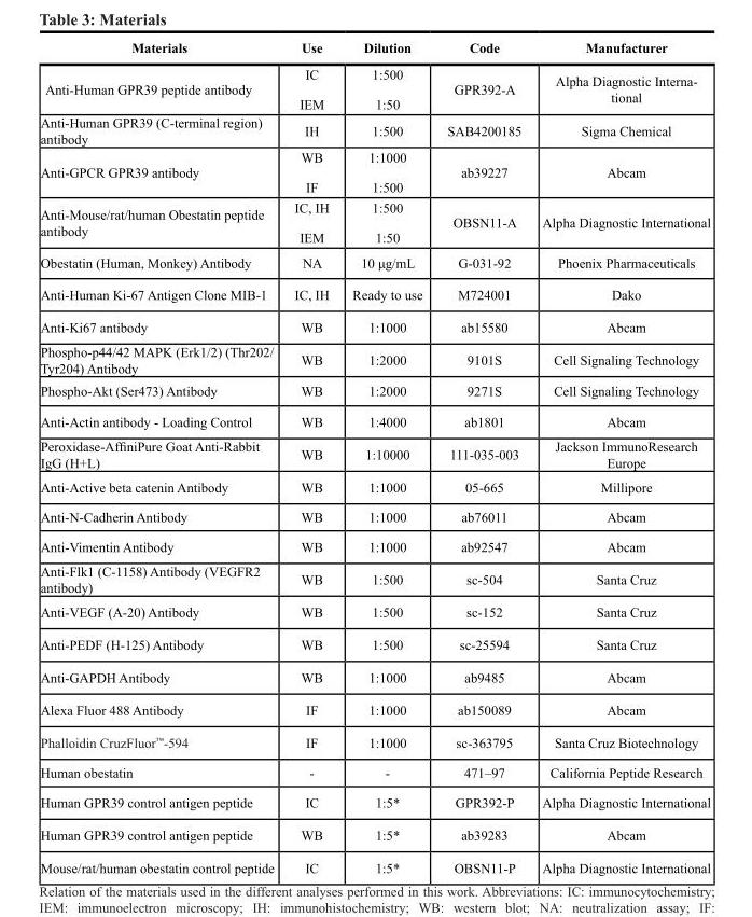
<table><thead><tr><td>Materials</td><td>Use</td><td>Dilution</td><td>Code</td><td>Manufacturer</td></tr></thead><tbody><tr><td>Anti-Human GPR39 peptide antibody</td><td>IC IEM</td><td>1:500 1:50</td><td>GPR392-A</td><td>Alpha Diagnostic Interna- tional</td></tr><tr><td>Anti-Human GPR39 (C-terminal region) antibody</td><td>IH</td><td>1:500</td><td>SAB4200185</td><td>Sigma Chemical</td></tr><tr><td>Anti-GPCR GPR39 antibody</td><td>WB IF</td><td>1:1000 1:500</td><td>ab39227</td><td>Abcam</td></tr><tr><td>Anti-Mouse/rat/human Obestatin peptide antibody</td><td>IC, IH IEM</td><td>1:500 1:50</td><td>OBSN11-A</td><td>Alpha Diagnostic International</td></tr><tr><td>Obestatin (Human, Monkey) Antibody</td><td>NA</td><td>10 μg/mL</td><td>G-031-92</td><td>Phoenix Pharmaceuticals</td></tr><tr><td>Anti-Human Ki-67 Antigen Clone MIB-1</td><td>IC, IH</td><td>Ready to use</td><td>M724001</td><td>Dako</td></tr><tr><td>Anti-Ki67 antibody</td><td>WB</td><td>1:1000</td><td>ab15580</td><td>Abcam</td></tr><tr><td>Phospho-p44/42 MAPK (Erk1/2) (Thr202/ Tyr204) Antibody</td><td>WB</td><td>1:2000</td><td>9101S</td><td>Cell Signaling Technology</td></tr><tr><td>Phospho-Akt (Ser473) Antibody</td><td>WB</td><td>1:2000</td><td>9271S</td><td>Cell Signaling Technology</td></tr><tr><td>Anti-Actin antibody - Loading Control</td><td>WB</td><td>1:4000</td><td>ab1801</td><td>Abcam</td></tr><tr><td>Peroxidase-AffiniPure Goat Anti-Rabbit IgG (H+L)</td><td>WB</td><td>1:10000</td><td>111-035-003</td><td>Jackson ImmunoResearch Europe</td></tr><tr><td>Anti-Active beta catenin Antibody</td><td>WB</td><td>1:1000</td><td>05-665</td><td>Millipore</td></tr><tr><td>Anti-N-Cadherin Antibody</td><td>WB</td><td>1:1000</td><td>ab76011</td><td>Abcam</td></tr><tr><td>Anti-Vimentin Antibody</td><td>WB</td><td>1:1000</td><td>ab92547</td><td>Abcam</td></tr><tr><td>Anti-Flk1 (C-1158) Antibody (VEGFR2 antibody)</td><td>WB</td><td>1:500</td><td>sc-504</td><td>Santa Cruz</td></tr><tr><td>Anti-VEGF (A-20) Antibody</td><td>WB</td><td>1:500</td><td>sc-152</td><td>Santa Cruz</td></tr><tr><td>Anti-PEDF (H-125) Antibody</td><td>WB</td><td>1:500</td><td>sc-25594</td><td>Santa Cruz</td></tr><tr><td>Anti-GAPDH Antibody</td><td>WB</td><td>1:1000</td><td>ab9485</td><td>Abcam</td></tr><tr><td>Alexa Fluor 488 Antibody</td><td>IF</td><td>1:1000</td><td>ab150089</td><td>Abcam</td></tr><tr><td>Phalloidin CruzFluor<sup>™</sup>-594</td><td>IF</td><td>1:1000</td><td>sc-363795</td><td>Santa Cruz Biotechnology</td></tr><tr><td>Human obestatin</td><td>-</td><td>-</td><td>471–97</td><td>California Peptide Research</td></tr><tr><td>Human GPR39 control antigen peptide</td><td>IC</td><td>1:5*</td><td>GPR392-P</td><td>Alpha Diagnostic International</td></tr><tr><td>Human GPR39 control antigen peptide</td><td>WB</td><td>1:5*</td><td>ab39283</td><td>Abcam</td></tr><tr><td>Mouse/rat/human obestatin control peptide</td><td>IC</td><td>1:5*</td><td>OBSN11-P</td><td>Alpha Diagnostic International</td></tr></tbody></table>